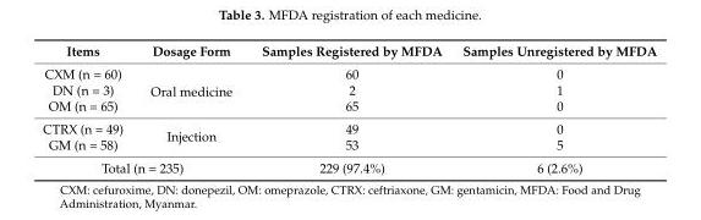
<table><thead><tr><td>Items</td><td>Dosage Form</td><td>Samples Registered by MFDA</td><td>Samples Unregistered by MFDA</td></tr></thead><tbody><tr><td>CXM (n = 60)</td><td rowspan="3">Oral medicine</td><td>60</td><td>0</td></tr><tr><td>DN (n = 3)</td><td>2</td><td>1</td></tr><tr><td>OM (n = 65)</td><td>65</td><td>0</td></tr><tr><td>CTRX (n = 49)</td><td rowspan="2">Injection</td><td>49</td><td>0</td></tr><tr><td>GM (n = 58)</td><td>53</td><td>5</td></tr><tr><td colspan="2">Total (n = 235)</td><td>229 (97.4%)</td><td>6 (2.6%)</td></tr></tbody></table>